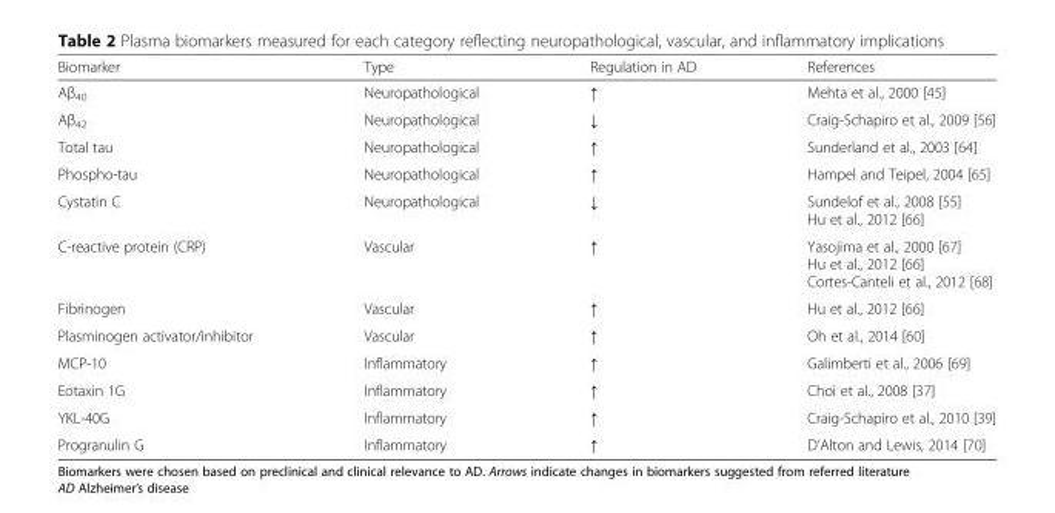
<table><thead><tr><td>Biomarker</td><td>Type</td><td>Regulation in AD</td><td>References</td></tr></thead><tbody><tr><td>Aβ<sub>40</sub></td><td>Neuropathological</td><td>↑</td><td>Mehta et al., 2000 [45]</td></tr><tr><td>Aβ<sub>42</sub></td><td>Neuropathological</td><td>↓</td><td>Craig-Schapiro et al., 2009 [56]</td></tr><tr><td>Total tau</td><td>Neuropathological</td><td>↑</td><td>Sunderland et al., 2003 [64]</td></tr><tr><td>Phospho-tau</td><td>Neuropathological</td><td>↑</td><td>Hampel and Teipel, 2004 [65]</td></tr><tr><td>Cystatin C</td><td>Neuropathological</td><td>↓</td><td>Sundelof et al., 2008 [55] Hu et al., 2012 [66]</td></tr><tr><td>C-reactive protein (CRP)</td><td>Vascular</td><td>↑</td><td>Yasojima et al., 2000 [67] Hu et al., 2012 [66] Cortes-Canteli et al., 2012 [68]</td></tr><tr><td>Fibrinogen</td><td>Vascular</td><td>↑</td><td>Hu et al., 2012 [66]</td></tr><tr><td>Plasminogen activator/inhibitor</td><td>Vascular</td><td>↑</td><td>Oh et al., 2014 [60]</td></tr><tr><td>MCP-10</td><td>Inflammatory</td><td>↑</td><td>Galimberti et al., 2006 [69]</td></tr><tr><td>Eotaxin 1G</td><td>Inflammatory</td><td>↑</td><td>Choi et al., 2008 [37]</td></tr><tr><td>YKL-40G</td><td>Inflammatory</td><td>↑</td><td>Craig-Schapiro et al., 2010 [39]</td></tr><tr><td>Progranulin G</td><td>Inflammatory</td><td>↑</td><td>D’Alton and Lewis, 2014 [70]</td></tr></tbody></table>